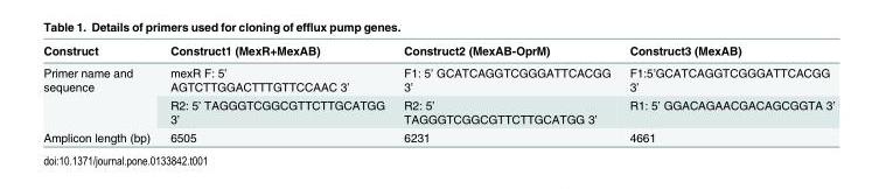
<table><thead><tr><td>Construct</td><td>Construct1 (MexR+MexAB)</td><td>Construct2 (MexAB-OprM)</td><td>Construct3 (MexAB)</td></tr></thead><tbody><tr><td rowspan="2">Primer name and sequence</td><td>mexR F: 5’ AGTCTTGGACTTTGTTCCAAC 3’</td><td>F1: 5’ GCATCAGGTCGGGATTCACGG 3’</td><td>F1:5’GCATCAGGTCGGGATTCACGG 3’</td></tr><tr><td>R2: 5’ TAGGGTCGGCGTTCTTGCATGG 3’</td><td>R2: 5’ TAGGGTCGGCGTTCTTGCATGG 3’</td><td>R1: 5’ GGACAGAACGACAGCGGTA 3’</td></tr><tr><td>Amplicon length (bp)</td><td>6505</td><td>6231</td><td>4661</td></tr></tbody></table>